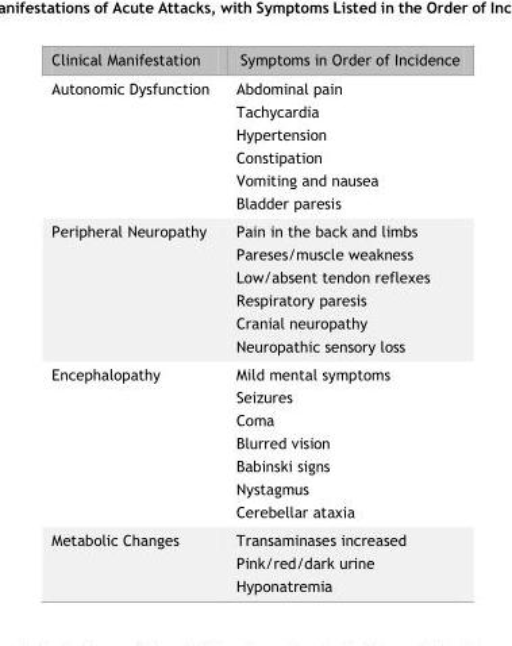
<table><thead><tr><td>Clinical Manifestation</td><td>Symptoms in Order of Incidence</td></tr></thead><tbody><tr><td>Autonomic Dysfunction</td><td>Abdominal pain Tachycardia Hypertension Constipation Vomiting and nausea Bladder paresis</td></tr><tr><td>Peripheral Neuropathy</td><td>Pain in the back and limbs Pareses/muscle weakness Low/absent tendon reflexes Respiratory paresis Cranial neuropathy Neuropathic sensory loss</td></tr><tr><td>Encephalopathy</td><td>Mild mental symptoms Seizures Coma Blurred vision Babinski signs Nystagmus Cerebellar ataxia</td></tr><tr><td>Metabolic Changes</td><td>Transaminases increased Pink/red/dark urine Hyponatremia</td></tr></tbody></table>